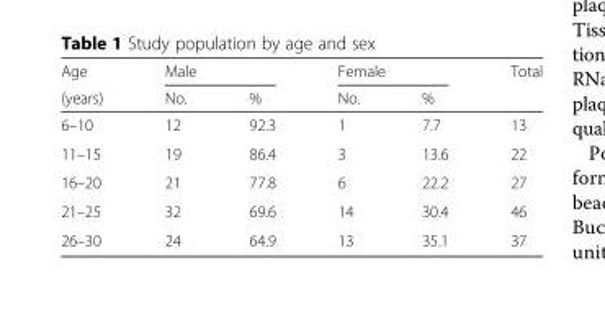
<table><thead><tr><td rowspan="2">Age (years)</td><td colspan="2">Male</td><td colspan="2">Female</td><td rowspan="2">Total</td></tr><tr><td>No.</td><td>%</td><td>No.</td><td>%</td></tr></thead><tbody><tr><td>6–10</td><td>12</td><td>92.3</td><td>1</td><td>7.7</td><td>13</td></tr><tr><td>11–15</td><td>19</td><td>86.4</td><td>3</td><td>13.6</td><td>22</td></tr><tr><td>16–20</td><td>21</td><td>77.8</td><td>6</td><td>22.2</td><td>27</td></tr><tr><td>21–25</td><td>32</td><td>69.6</td><td>14</td><td>30.4</td><td>46</td></tr><tr><td>26–30</td><td>24</td><td>64.9</td><td>13</td><td>35.1</td><td>37</td></tr></tbody></table>